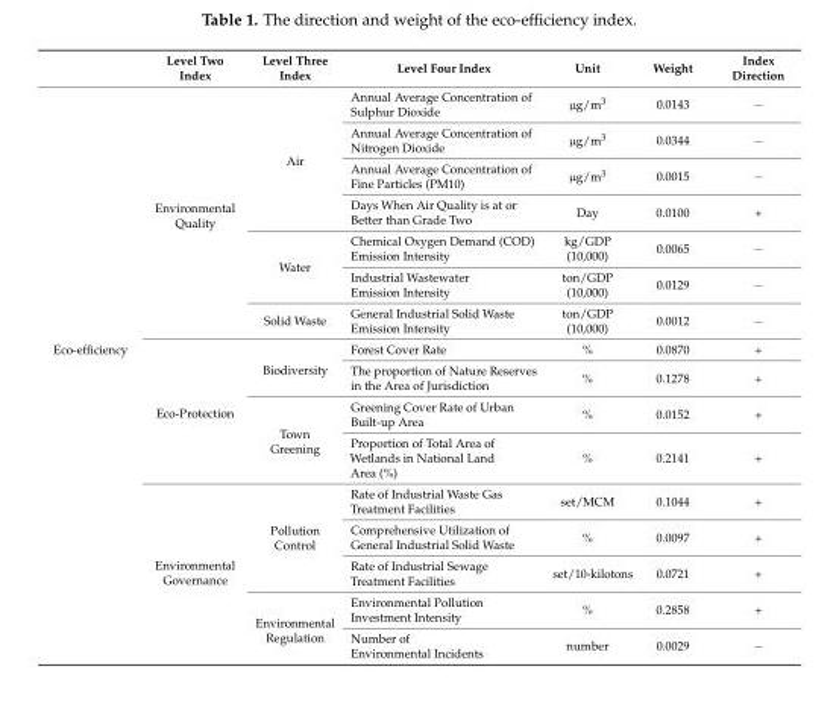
<table><thead><tr><td></td><td>Level Two Index</td><td>Level Three Index</td><td>Level Four Index</td><td>Unit</td><td>Weight</td><td>Index Direction</td></tr></thead><tbody><tr><td rowspan="16">Eco-efficiency</td><td rowspan="7">Environmental Quality</td><td rowspan="4">Air</td><td>Annual Average Concentration of Sulphur Dioxide</td><td>µg/m<sup>3</sup></td><td>0.0143</td><td>−</td></tr><tr><td>Annual Average Concentration of Nitrogen Dioxide</td><td>µg/m<sup>3</sup></td><td>0.0344</td><td>−</td></tr><tr><td>Annual Average Concentration of Fine Particles (PM10)</td><td>µg/m<sup>3</sup></td><td>0.0015</td><td>−</td></tr><tr><td>Days When Air Quality is at or Better than Grade Two</td><td>Day</td><td>0.0100</td><td>+</td></tr><tr><td rowspan="2">Water</td><td>Chemical Oxygen Demand (COD) Emission Intensity</td><td>kg/GDP (10,000)</td><td>0.0065</td><td>−</td></tr><tr><td>Industrial Wastewater Emission Intensity</td><td>ton/GDP (10,000)</td><td>0.0129</td><td>−</td></tr><tr><td>Solid Waste</td><td>General Industrial Solid Waste Emission Intensity</td><td>ton/GDP (10,000)</td><td>0.0012</td><td>−</td></tr><tr><td rowspan="4">Eco-Protection</td><td rowspan="2">Biodiversity</td><td>Forest Cover Rate</td><td>%</td><td>0.0870</td><td>+</td></tr><tr><td>The proportion of Nature Reserves in the Area of Jurisdiction</td><td>%</td><td>0.1278</td><td>+</td></tr><tr><td rowspan="2">Town Greening</td><td>Greening Cover Rate of Urban Built-up Area</td><td>%</td><td>0.0152</td><td>+</td></tr><tr><td>Proportion of Total Area of Wetlands in National Land Area (%)</td><td>%</td><td>0.2141</td><td>+</td></tr><tr><td rowspan="5">Environmental Governance</td><td rowspan="3">Pollution Control</td><td>Rate of Industrial Waste Gas Treatment Facilities</td><td>set/MCM</td><td>0.1044</td><td>+</td></tr><tr><td>Comprehensive Utilization of General Industrial Solid Waste</td><td>%</td><td>0.0097</td><td>+</td></tr><tr><td>Rate of Industrial Sewage Treatment Facilities</td><td>set/10-kilotons</td><td>0.0721</td><td>+</td></tr><tr><td rowspan="2">Environmental Regulation</td><td>Environmental Pollution Investment Intensity</td><td>%</td><td>0.2858</td><td>+</td></tr><tr><td>Number of Environmental Incidents</td><td>number</td><td>0.0029</td><td>−</td></tr></tbody></table>